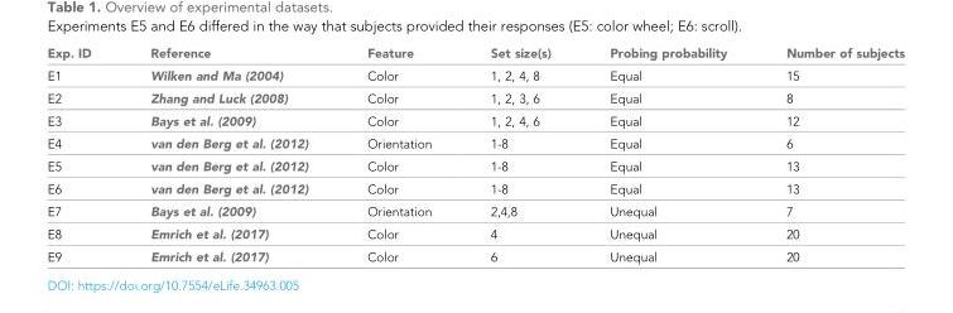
<table><thead><tr><td>Exp. ID</td><td>Reference</td><td>Feature</td><td>Set size(s)</td><td>Probing probability</td><td>Number of subjects</td></tr></thead><tbody><tr><td>E1</td><td>Wilken and Ma (2004)</td><td>Color</td><td>1, 2, 4, 8</td><td>Equal</td><td>15</td></tr><tr><td>E2</td><td>Zhang and Luck (2008)</td><td>Color</td><td>1, 2, 3, 6</td><td>Equal</td><td>8</td></tr><tr><td>E3</td><td>Bays et al. (2009)</td><td>Color</td><td>1, 2, 4, 6</td><td>Equal</td><td>12</td></tr><tr><td>E4</td><td>van den Berg et al. (2012)</td><td>Orientation</td><td>1-8</td><td>Equal</td><td>6</td></tr><tr><td>E5</td><td>van den Berg et al. (2012)</td><td>Color</td><td>1-8</td><td>Equal</td><td>13</td></tr><tr><td>E6</td><td>van den Berg et al. (2012)</td><td>Color</td><td>1-8</td><td>Equal</td><td>13</td></tr><tr><td>E7</td><td>Bays et al. (2009)</td><td>Orientation</td><td>2,4,8</td><td>Unequal</td><td>7</td></tr><tr><td>E8</td><td>Emrich et al. (2017)</td><td>Color</td><td>4</td><td>Unequal</td><td>20</td></tr><tr><td>E9</td><td>Emrich et al. (2017)</td><td>Color</td><td>6</td><td>Unequal</td><td>20</td></tr></tbody></table>